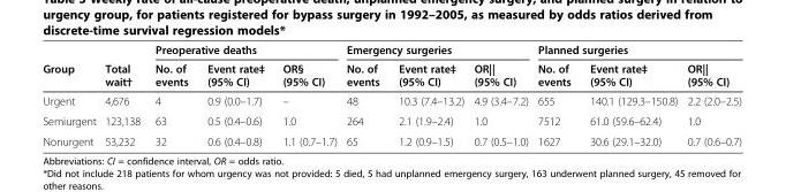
<table><thead><tr><td rowspan="2">Group</td><td rowspan="2">Total wait†</td><td colspan="3">Preoperative deaths</td><td colspan="3">Emergency surgeries</td><td colspan="3">Planned surgeries</td></tr><tr><td>No. of events</td><td>Event rate‡ (95% CI)</td><td>OR§ (95% CI)</td><td>No. of events</td><td>Event rate‡ (95% CI)</td><td>OR|| (95% CI)</td><td>No. of events</td><td>Event rate‡ (95% CI)</td><td>OR|| (95% CI)</td></tr></thead><tbody><tr><td>Urgent</td><td>4,676</td><td>4</td><td>0.9 (0.0–1.7)</td><td>–</td><td>48</td><td>10.3 (7.4–13.2)</td><td>4.9 (3.4–7.2)</td><td>655</td><td>140.1 (129.3–150.8)</td><td>2.2 (2.0–2.5)</td></tr><tr><td>Semiurgent</td><td>123,138</td><td>63</td><td>0.5 (0.4–0.6)</td><td>1.0</td><td>264</td><td>2.1 (1.9–2.4)</td><td>1.0</td><td>7512</td><td>61.0 (59.6–62.4)</td><td>1.0</td></tr><tr><td>Nonurgent</td><td>53,232</td><td>32</td><td>0.6 (0.4–0.8)</td><td>1.1 (0.7–1.7)</td><td>65</td><td>1.2 (0.9–1.5)</td><td>0.7 (0.5–1.0)</td><td>1627</td><td>30.6 (29.1–32.0)</td><td>0.7 (0.6–0.7)</td></tr></tbody></table>